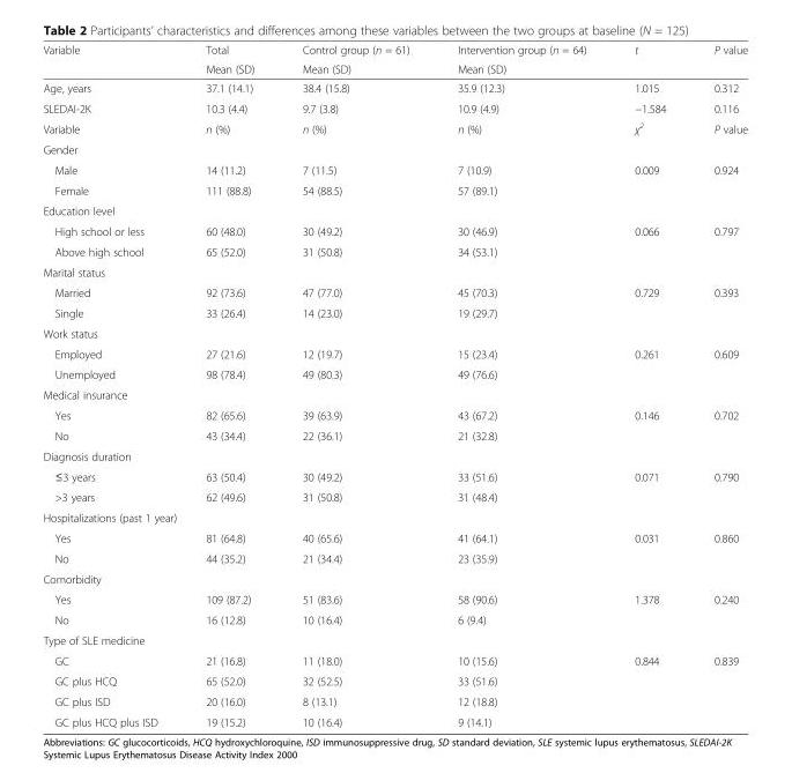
<table><thead><tr><td rowspan="2">Variable</td><td rowspan="2">Total Mean (SD)</td><td rowspan="2">Control group (n = 61) Mean (SD)</td><td rowspan="2">Intervention group (n = 64) Mean (SD)</td><td rowspan="2">t</td><td rowspan="2">P value</td></tr><tr></tr></thead><tbody><tr><td>Age, years</td><td>37.1 (14.1)</td><td>38.4 (15.8)</td><td>35.9 (12.3)</td><td>1.015</td><td>0.312</td></tr><tr><td>SLEDAI-2K</td><td>10.3 (4.4)</td><td>9.7 (3.8)</td><td>10.9 (4.9)</td><td>−1.584</td><td>0.116</td></tr><tr><td>Variable</td><td>n (%)</td><td>n (%)</td><td>n (%)</td><td>χ<sup>2</sup></td><td>P value</td></tr><tr><td colspan="6">Gender</td></tr><tr><td>Male</td><td>14 (11.2)</td><td>7 (11.5)</td><td>7 (10.9)</td><td rowspan="2">0.009</td><td rowspan="2">0.924</td></tr><tr><td>Female</td><td>111 (88.8)</td><td>54 (88.5)</td><td>57 (89.1)</td></tr><tr><td colspan="6">Education level</td></tr><tr><td>High school or less</td><td>60 (48.0)</td><td>30 (49.2)</td><td>30 (46.9)</td><td rowspan="2">0.066</td><td rowspan="2">0.797</td></tr><tr><td>Above high school</td><td>65 (52.0)</td><td>31 (50.8)</td><td>34 (53.1)</td></tr><tr><td colspan="6">Marital status</td></tr><tr><td>Married</td><td>92 (73.6)</td><td>47 (77.0)</td><td>45 (70.3)</td><td rowspan="2">0.729</td><td rowspan="2">0.393</td></tr><tr><td>Single</td><td>33 (26.4)</td><td>14 (23.0)</td><td>19 (29.7)</td></tr><tr><td colspan="6">Work status</td></tr><tr><td>Employed</td><td>27 (21.6)</td><td>12 (19.7)</td><td>15 (23.4)</td><td rowspan="2">0.261</td><td rowspan="2">0.609</td></tr><tr><td>Unemployed</td><td>98 (78.4)</td><td>49 (80.3)</td><td>49 (76.6)</td></tr><tr><td colspan="6">Medical insurance</td></tr><tr><td>Yes</td><td>82 (65.6)</td><td>39 (63.9)</td><td>43 (67.2)</td><td rowspan="2">0.146</td><td rowspan="2">0.702</td></tr><tr><td>No</td><td>43 (34.4)</td><td>22 (36.1)</td><td>21 (32.8)</td></tr><tr><td colspan="6">Diagnosis duration</td></tr><tr><td>≤3 years</td><td>63 (50.4)</td><td>30 (49.2)</td><td>33 (51.6)</td><td rowspan="2">0.071</td><td rowspan="2">0.790</td></tr><tr><td>&gt;3 years</td><td>62 (49.6)</td><td>31 (50.8)</td><td>31 (48.4)</td></tr><tr><td colspan="6">Hospitalizations (past 1 year)</td></tr><tr><td>Yes</td><td>81 (64.8)</td><td>40 (65.6)</td><td>41 (64.1)</td><td rowspan="2">0.031</td><td rowspan="2">0.860</td></tr><tr><td>No</td><td>44 (35.2)</td><td>21 (34.4)</td><td>23 (35.9)</td></tr><tr><td colspan="6">Comorbidity</td></tr><tr><td>Yes</td><td>109 (87.2)</td><td>51 (83.6)</td><td>58 (90.6)</td><td rowspan="2">1.378</td><td rowspan="2">0.240</td></tr><tr><td>No</td><td>16 (12.8)</td><td>10 (16.4)</td><td>6 (9.4)</td></tr><tr><td colspan="6">Type of SLE medicine</td></tr><tr><td>GC</td><td>21 (16.8)</td><td>11 (18.0)</td><td>10 (15.6)</td><td rowspan="4">0.844</td><td rowspan="4">0.839</td></tr><tr><td>GC plus HCQ</td><td>65 (52.0)</td><td>32 (52.5)</td><td>33 (51.6)</td></tr><tr><td>GC plus ISD</td><td>20 (16.0)</td><td>8 (13.1)</td><td>12 (18.8)</td></tr><tr><td>GC plus HCQ plus ISD</td><td>19 (15.2)</td><td>10 (16.4)</td><td>9 (14.1)</td></tr></tbody></table>